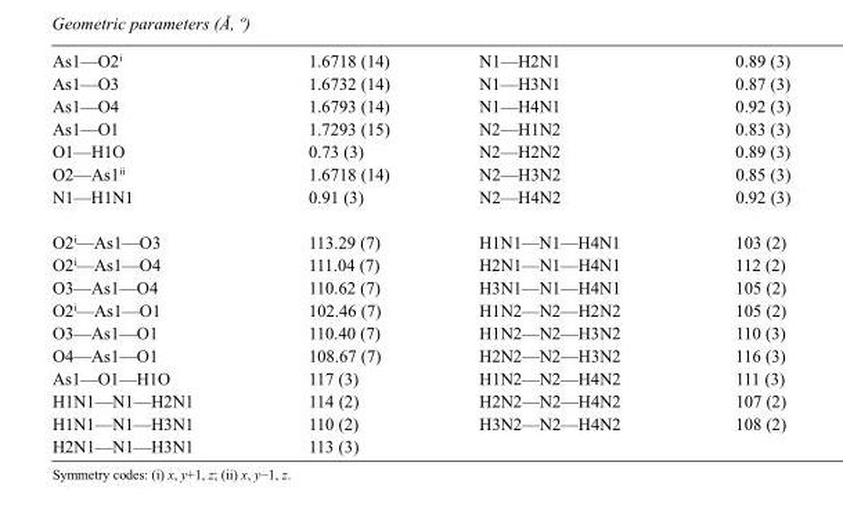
<table><tbody><tr><td>As1—O2<sup>i</sup></td><td>1.6718 (14)</td><td>N1—H2N1</td><td>0.89 (3)</td></tr><tr><td>As1—O3</td><td>1.6732 (14)</td><td>N1—H3N1</td><td>0.87 (3)</td></tr><tr><td>As1—O4</td><td>1.6793 (14)</td><td>N1—H4N1</td><td>0.92 (3)</td></tr><tr><td>As1—O1</td><td>1.7293 (15)</td><td>N2—H1N2</td><td>0.83 (3)</td></tr><tr><td>O1—H1O</td><td>0.73 (3)</td><td>N2—H2N2</td><td>0.89 (3)</td></tr><tr><td>O2—As1<sup>ii</sup></td><td>1.6718 (14)</td><td>N2—H3N2</td><td>0.85 (3)</td></tr><tr><td>N1—H1N1</td><td>0.91 (3)</td><td>N2—H4N2</td><td>0.92 (3)</td></tr><tr><td>O2<sup>i</sup>—As1—O3</td><td>113.29 (7)</td><td>H1N1—N1—H4N1</td><td>103 (2)</td></tr><tr><td>O2<sup>i</sup>—As1—O4</td><td>111.04 (7)</td><td>H2N1—N1—H4N1</td><td>112 (2)</td></tr><tr><td>O3—As1—O4</td><td>110.62 (7)</td><td>H3N1—N1—H4N1</td><td>105 (2)</td></tr><tr><td>O2<sup>i</sup>—As1—O1</td><td>102.46 (7)</td><td>H1N2—N2—H2N2</td><td>105 (2)</td></tr><tr><td>O3—As1—O1</td><td>110.40 (7)</td><td>H1N2—N2—H3N2</td><td>110 (3)</td></tr><tr><td>O4—As1—O1</td><td>108.67 (7)</td><td>H2N2—N2—H3N2</td><td>116 (3)</td></tr><tr><td>As1—O1—H1O</td><td>117 (3)</td><td>H1N2—N2—H4N2</td><td>111 (3)</td></tr><tr><td>H1N1—N1—H2N1</td><td>114 (2)</td><td>H2N2—N2—H4N2</td><td>107 (2)</td></tr><tr><td>H1N1—N1—H3N1</td><td>110 (2)</td><td>H3N2—N2—H4N2</td><td>108 (2)</td></tr><tr><td>H2N1—N1—H3N1</td><td>113 (3)</td><td></td><td></td></tr></tbody></table>